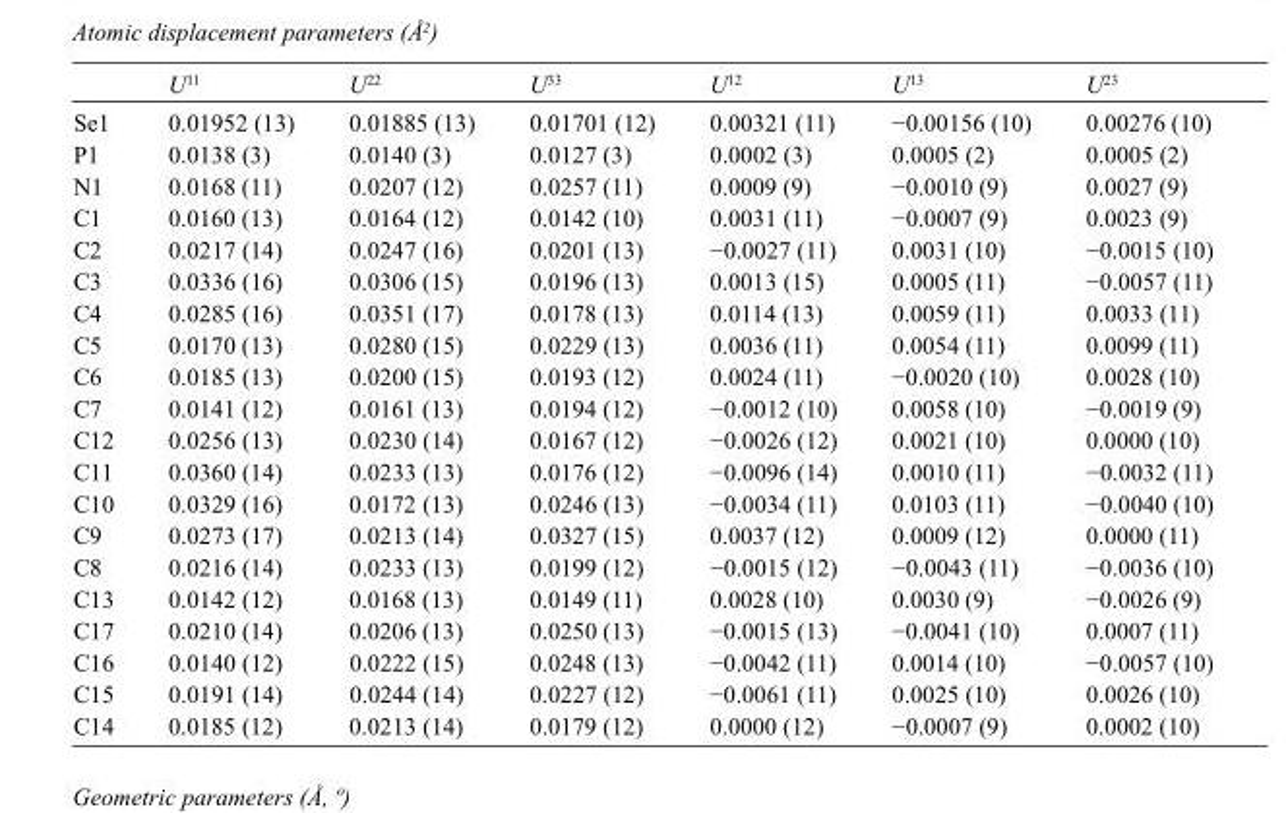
<table><thead><tr><td></td><td>U<sup>11</sup></td><td>U<sup>22</sup></td><td>U<sup>33</sup></td><td>U<sup>12</sup></td><td>U<sup>13</sup></td><td>U<sup>23</sup></td></tr></thead><tbody><tr><td>Se1</td><td>0.01952 (13)</td><td>0.01885 (13)</td><td>0.01701 (12)</td><td>0.00321 (11)</td><td>−0.00156 (10)</td><td>0.00276 (10)</td></tr><tr><td>P1</td><td>0.0138 (3)</td><td>0.0140 (3)</td><td>0.0127 (3)</td><td>0.0002 (3)</td><td>0.0005 (2)</td><td>0.0005 (2)</td></tr><tr><td>N1</td><td>0.0168 (11)</td><td>0.0207 (12)</td><td>0.0257 (11)</td><td>0.0009 (9)</td><td>−0.0010 (9)</td><td>0.0027 (9)</td></tr><tr><td>C1</td><td>0.0160 (13)</td><td>0.0164 (12)</td><td>0.0142 (10)</td><td>0.0031 (11)</td><td>−0.0007 (9)</td><td>0.0023 (9)</td></tr><tr><td>C2</td><td>0.0217 (14)</td><td>0.0247 (16)</td><td>0.0201 (13)</td><td>−0.0027 (11)</td><td>0.0031 (10)</td><td>−0.0015 (10)</td></tr><tr><td>C3</td><td>0.0336 (16)</td><td>0.0306 (15)</td><td>0.0196 (13)</td><td>0.0013 (15)</td><td>0.0005 (11)</td><td>−0.0057 (11)</td></tr><tr><td>C4</td><td>0.0285 (16)</td><td>0.0351 (17)</td><td>0.0178 (13)</td><td>0.0114 (13)</td><td>0.0059 (11)</td><td>0.0033 (11)</td></tr><tr><td>C5</td><td>0.0170 (13)</td><td>0.0280 (15)</td><td>0.0229 (13)</td><td>0.0036 (11)</td><td>0.0054 (11)</td><td>0.0099 (11)</td></tr><tr><td>C6</td><td>0.0185 (13)</td><td>0.0200 (15)</td><td>0.0193 (12)</td><td>0.0024 (11)</td><td>−0.0020 (10)</td><td>0.0028 (10)</td></tr><tr><td>C7</td><td>0.0141 (12)</td><td>0.0161 (13)</td><td>0.0194 (12)</td><td>−0.0012 (10)</td><td>0.0058 (10)</td><td>−0.0019 (9)</td></tr><tr><td>C12</td><td>0.0256 (13)</td><td>0.0230 (14)</td><td>0.0167 (12)</td><td>−0.0026 (12)</td><td>0.0021 (10)</td><td>0.0000 (10)</td></tr><tr><td>C11</td><td>0.0360 (14)</td><td>0.0233 (13)</td><td>0.0176 (12)</td><td>−0.0096 (14)</td><td>0.0010 (11)</td><td>−0.0032 (11)</td></tr><tr><td>C10</td><td>0.0329 (16)</td><td>0.0172 (13)</td><td>0.0246 (13)</td><td>−0.0034 (11)</td><td>0.0103 (11)</td><td>−0.0040 (10)</td></tr><tr><td>C9</td><td>0.0273 (17)</td><td>0.0213 (14)</td><td>0.0327 (15)</td><td>0.0037 (12)</td><td>0.0009 (12)</td><td>0.0000 (11)</td></tr><tr><td>C8</td><td>0.0216 (14)</td><td>0.0233 (13)</td><td>0.0199 (12)</td><td>−0.0015 (12)</td><td>−0.0043 (11)</td><td>−0.0036 (10)</td></tr><tr><td>C13</td><td>0.0142 (12)</td><td>0.0168 (13)</td><td>0.0149 (11)</td><td>0.0028 (10)</td><td>0.0030 (9)</td><td>−0.0026 (9)</td></tr><tr><td>C17</td><td>0.0210 (14)</td><td>0.0206 (13)</td><td>0.0250 (13)</td><td>−0.0015 (13)</td><td>−0.0041 (10)</td><td>0.0007 (11)</td></tr><tr><td>C16</td><td>0.0140 (12)</td><td>0.0222 (15)</td><td>0.0248 (13)</td><td>−0.0042 (11)</td><td>0.0014 (10)</td><td>−0.0057 (10)</td></tr><tr><td>C15</td><td>0.0191 (14)</td><td>0.0244 (14)</td><td>0.0227 (12)</td><td>−0.0061 (11)</td><td>0.0025 (10)</td><td>0.0026 (10)</td></tr><tr><td>C14</td><td>0.0185 (12)</td><td>0.0213 (14)</td><td>0.0179 (12)</td><td>0.0000 (12)</td><td>−0.0007 (9)</td><td>0.0002 (10)</td></tr></tbody></table>